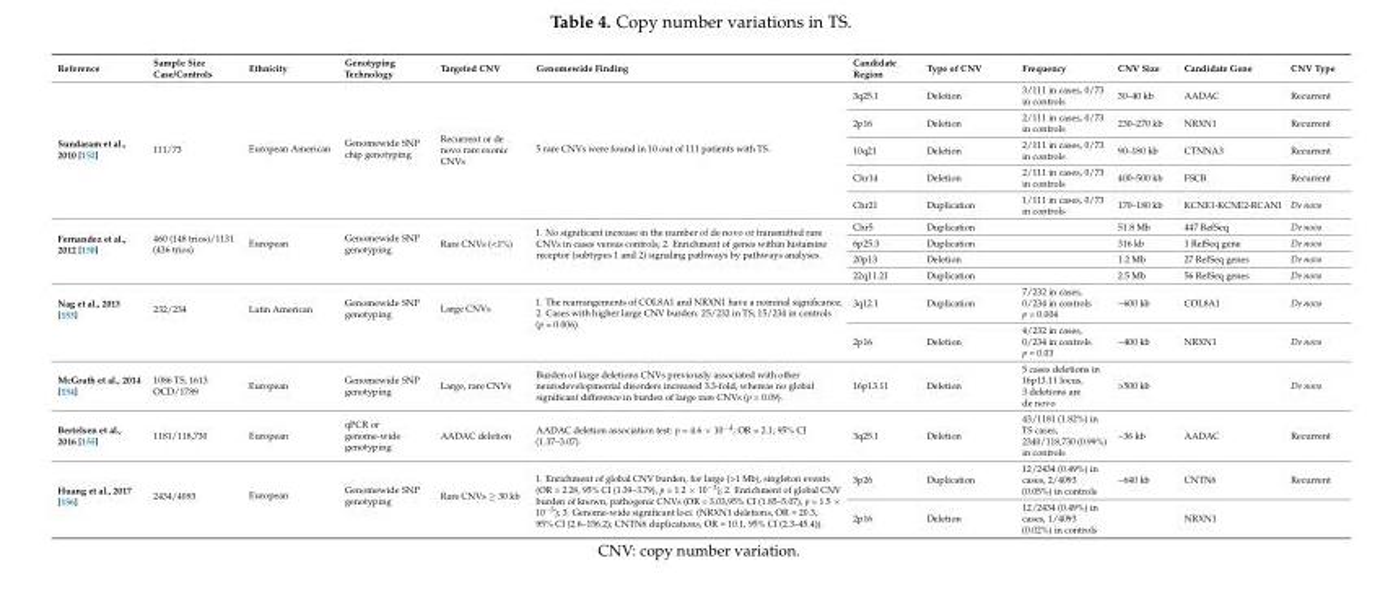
<table><thead><tr><td>Reference</td><td>Sample Size Case/Controls</td><td>Ethnicity</td><td>Genotyping Technology</td><td>Targeted CNV</td><td>Genomewide Finding</td><td>Candidate Region</td><td>Type of CNV</td><td>Frequency</td><td>CNV Size</td><td>Candidate Gene</td><td>CNV Type</td></tr></thead><tbody><tr><td rowspan="5">Sundaram et al., 2010 [152]</td><td rowspan="5">111/73</td><td rowspan="5">European American</td><td rowspan="5">Genomewide SNP chip genotyping</td><td rowspan="5">Recurrent or de novo rare exonic CNVs</td><td rowspan="5">5 rare CNVs were found in 10 out of 111 patients with TS.</td><td>3q25.1</td><td>Deletion</td><td>3/111 in cases, 0/73 in controls</td><td>30–40 kb</td><td>AADAC</td><td>Recurrent</td></tr><tr><td>2p16</td><td>Deletion</td><td>2/111 in cases, 0/73 in controls</td><td>230–270 kb</td><td>NRXN1</td><td>Recurrent</td></tr><tr><td>10q21</td><td>Deletion</td><td>2/111 in cases, 0/73 in controls</td><td>90–180 kb</td><td>CTNNA3</td><td>Recurrent</td></tr><tr><td>Chr14</td><td>Deletion</td><td>2/111 in cases, 0/73 in controls</td><td>400–500 kb</td><td>FSCB</td><td>Recurrent</td></tr><tr><td>Chr21</td><td>Duplication</td><td>1/111 in cases, 0/73 in controls</td><td>170–180 kb</td><td>KCNE1-KCNE2-RCAN1</td><td>De novo</td></tr><tr><td rowspan="4">Fernandez et al., 2012 [150]</td><td rowspan="4">460 (148 trios)/1131 (436 trios)</td><td rowspan="4">European</td><td rowspan="4">Genomewide SNP genotyping</td><td rowspan="4">Rare CNVs (&lt;1%)</td><td rowspan="4">1. No significant increase in the number of de novo or transmitted rare CNVs in cases versus controls; 2. Enrichment of genes within histamine receptor (subtypes 1 and 2) signaling pathways by pathways analyses.</td><td>Chr5</td><td>Duplication</td><td></td><td>51.8 Mb</td><td>447 RefSeq</td><td>De novo</td></tr><tr><td>6p25.3</td><td>Duplication</td><td></td><td>316 kb</td><td>1 RefSeq gene</td><td>De novo</td></tr><tr><td>20p13</td><td>Deletion</td><td></td><td>1.2 Mb</td><td>27 RefSeq genes</td><td>De novo</td></tr><tr><td>22q11.21</td><td>Duplication</td><td></td><td>2.5 Mb</td><td>56 RefSeq genes</td><td>De novo</td></tr><tr><td rowspan="2">Nag et al., 2013 [153]</td><td rowspan="2">232/234</td><td rowspan="2">Latin American</td><td rowspan="2">Genomewide SNP genotyping</td><td rowspan="2">Large CNVs</td><td rowspan="2">1. The rearrangements of COL8A1 and NRXN1 have a nominal significance; 2. Cases with higher large CNV burden: 25/232 in TS; 15/234 in controls (p = 0.006).</td><td>3q12.1</td><td>Duplication</td><td>7/232 in cases, 0/234 in controls p = 0.004</td><td>~600 kb</td><td>COL8A1</td><td>De novo</td></tr><tr><td>2p16</td><td>Deletion</td><td>4/232 in cases, 0/234 in controls p = 0.03</td><td>~400 kb</td><td>NRXN1</td><td>De novo</td></tr><tr><td>McGrath et al., 2014 [154]</td><td>1086 TS, 1613 OCD/1789</td><td>European</td><td>Genomewide SNP genotyping</td><td>Large, rare CNVs</td><td>Burden of large deletions CNVs previously associated with other neurodevelopmental disorders increased 3.3-fold, whereas no global significant difference in burden of large rare CNVs (p = 0.09).</td><td>16p13.11</td><td>Deletion</td><td>5 cases deletions in 16p13.11 locus, 3 deletions are de novo</td><td>&gt;500 kb</td><td></td><td>De novo</td></tr><tr><td>Bertelsen et al., 2016 [155]</td><td>1181/118,730</td><td>European</td><td>qPCR or genome-wide genotyping</td><td>AADAC deletion</td><td>AADAC deletion association test: p = 4.6 × 10<sup>−4</sup>; OR = 2.1; 95% CI (1.37–3.07).</td><td>3q25.1</td><td>Deletion</td><td>43/1181 (1.82%) in TS cases, 2340/118,730 (0.99%) in controls</td><td>~36 kb</td><td>AADAC</td><td>Recurrent</td></tr><tr><td rowspan="2">Huang et al., 2017 [156]</td><td rowspan="2">2434/4093</td><td rowspan="2">European</td><td rowspan="2">Genomewide SNP genotyping</td><td rowspan="2">Rare CNVs ≥ 30 kb</td><td rowspan="2">1. Enrichment of global CNV burden, for large (&gt;1 Mb), singleton events (OR = 2.28, 95% CI (1.39–3.79), p = 1.2 × 10<sup>−3</sup>); 2. Enrichment of global CNV burden of known, pathogenic CNVs (OR = 3.03,95% CI (1.85–5.07), p = 1.5 × 10<sup>−5</sup>); 3. Genome-wide significant loci: (NRXN1 deletions, OR = 20.3, 95% CI (2.6–156.2); CNTN6 duplications, OR = 10.1, 95% CI (2.3–45.4)).</td><td>3p26</td><td>Duplication</td><td>12/2434 (0.49%) in cases, 2/4093 (0.05%) in controls</td><td>~640 kb</td><td>CNTN6</td><td>Recurrent</td></tr><tr><td>2p16</td><td>Deletion</td><td>12/2434 (0.49%) in cases, 1/4093 (0.02%) in controls</td><td></td><td>NRXN1</td><td></td></tr></tbody></table>